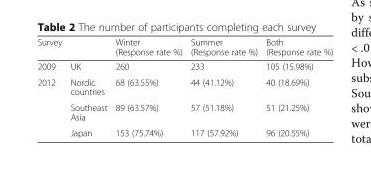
<table><thead><tr><td>Survey</td><td></td><td>Winter (Response rate %)</td><td>Summer (Response rate %)</td><td>Both (Response rate %)</td></tr></thead><tbody><tr><td>2009</td><td>UK</td><td>260</td><td>233</td><td>105 (15.98%)</td></tr><tr><td rowspan="3">2012</td><td>Nordic countries</td><td>68 (63.55%)</td><td>44 (41.12%)</td><td>40 (18.69%)</td></tr><tr><td>Southeast Asia</td><td>89 (63.57%)</td><td>57 (51.18%)</td><td>51 (21.25%)</td></tr><tr><td>Japan</td><td>153 (75.74%)</td><td>117 (57.92%)</td><td>96 (20.55%)</td></tr></tbody></table>